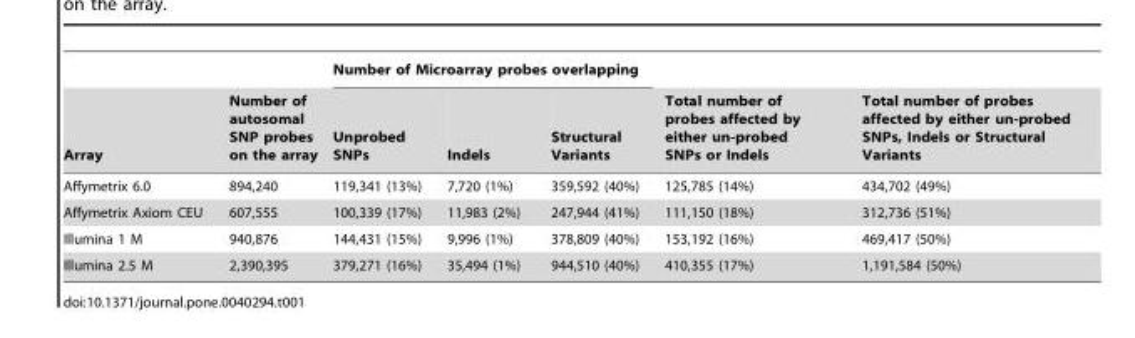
<table><thead><tr><td rowspan="2">Array</td><td rowspan="2">Number of autosomal SNP probes on the array</td><td colspan="3">Number of Microarray probes overlapping</td><td rowspan="2">Total number of probes affected by either un-probed SNPs or Indels</td><td rowspan="2">Total number of probes affected by either un-probed SNPs, Indels or Structural Variants</td></tr><tr><td>Unprobed SNPs</td><td>Indels</td><td>Structural Variants</td></tr></thead><tbody><tr><td>Affymetrix 6.0</td><td>894,240</td><td>119,341 (13%)</td><td>7,720 (1%)</td><td>359,592 (40%)</td><td>125,785 (14%)</td><td>434,702 (49%)</td></tr><tr><td>Affymetrix Axiom CEU</td><td>607,555</td><td>100,339 (17%)</td><td>11,983 (2%)</td><td>247,944 (41%)</td><td>111,150 (18%)</td><td>312,736 (51%)</td></tr><tr><td>Illumina 1 M</td><td>940,876</td><td>144,431 (15%)</td><td>9,996 (1%)</td><td>378,809 (40%)</td><td>153,192 (16%)</td><td>469,417 (50%)</td></tr><tr><td>Illumina 2.5 M</td><td>2,390,395</td><td>379,271 (16%)</td><td>35,494 (1%)</td><td>944,510 (40%)</td><td>410,355 (17%)</td><td>1,191,584 (50%)</td></tr></tbody></table>